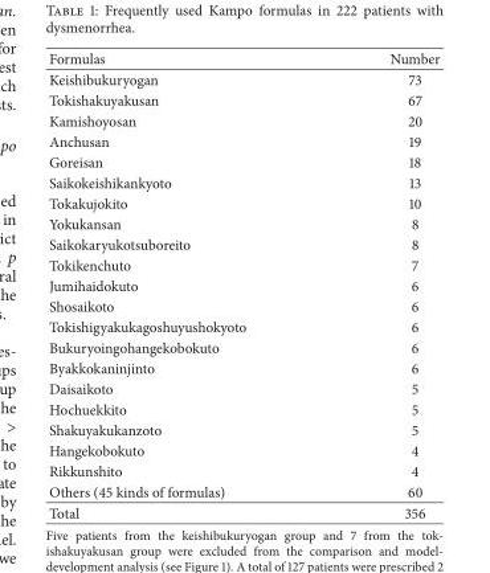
<table><thead><tr><td>Formulas</td><td>Number</td></tr></thead><tbody><tr><td>Keishibukuryogan</td><td>73</td></tr><tr><td>Tokishakuyakusan</td><td>67</td></tr><tr><td>Kamishoyosan</td><td>20</td></tr><tr><td>Anchusan</td><td>19</td></tr><tr><td>Goreisan</td><td>18</td></tr><tr><td>Saikokeishikankyoto</td><td>13</td></tr><tr><td>Tokakujokito</td><td>10</td></tr><tr><td>Yokukansan</td><td>8</td></tr><tr><td>Saikokaryukotsuboreito</td><td>8</td></tr><tr><td>Tokikenchuto</td><td>7</td></tr><tr><td>Jumihaidokuto</td><td>6</td></tr><tr><td>Shosaikoto</td><td>6</td></tr><tr><td>Tokishigyakukagoshuyushokyoto</td><td>6</td></tr><tr><td>Bukuryoingohangekobokuto</td><td>6</td></tr><tr><td>Byakkokaninjinto</td><td>6</td></tr><tr><td>Daisaikoto</td><td>5</td></tr><tr><td>Hochuekkito</td><td>5</td></tr><tr><td>Shakuyakukanzoto</td><td>5</td></tr><tr><td>Hangekobokuto</td><td>4</td></tr><tr><td>Rikkunshito</td><td>4</td></tr><tr><td>Others (45 kinds of formulas)</td><td>60</td></tr><tr><td>Total</td><td>356</td></tr></tbody></table>